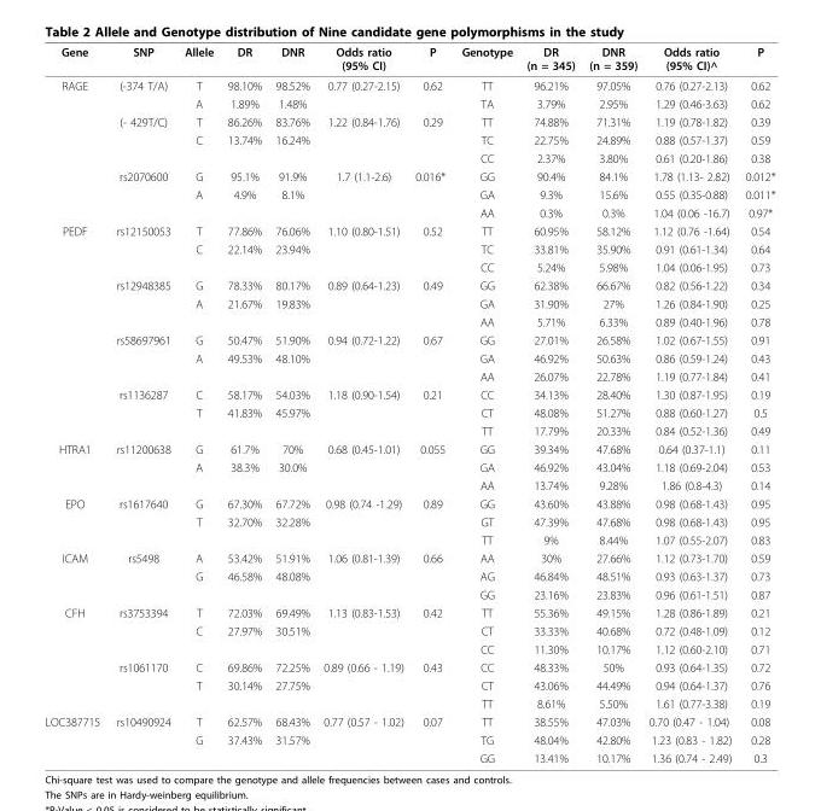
<table><thead><tr><td>Gene</td><td>SNP</td><td>Allele</td><td>DR</td><td>DNR</td><td>Odds ratio (95% CI)</td><td>P</td><td>Genotype</td><td>DR (n = 345)</td><td>DNR (n = 359)</td><td>Odds ratio (95% CI)^</td><td>P</td></tr></thead><tbody><tr><td rowspan="8">RAGE</td><td>(-374 T/A)</td><td>T</td><td>98.10%</td><td>98.52%</td><td>0.77 (0.27-2.15)</td><td>0.62</td><td>TT</td><td>96.21%</td><td>97.05%</td><td>0.76 (0.27-2.13)</td><td>0.62</td></tr><tr><td></td><td>A</td><td>1.89%</td><td>1.48%</td><td></td><td></td><td>TA</td><td>3.79%</td><td>2.95%</td><td>1.29 (0.46-3.63)</td><td>0.62</td></tr><tr><td>(- 429T/C)</td><td>T</td><td>86.26%</td><td>83.76%</td><td>1.22 (0.84-1.76)</td><td>0.29</td><td>TT</td><td>74.88%</td><td>71.31%</td><td>1.19 (0.78-1.82)</td><td>0.39</td></tr><tr><td></td><td>C</td><td>13.74%</td><td>16.24%</td><td></td><td></td><td>TC</td><td>22.75%</td><td>24.89%</td><td>0.88 (0.57-1.37)</td><td>0.59</td></tr><tr><td></td><td></td><td></td><td></td><td></td><td></td><td>CC</td><td>2.37%</td><td>3.80%</td><td>0.61 (0.20-1.86)</td><td>0.38</td></tr><tr><td>rs2070600</td><td>G</td><td>95.1%</td><td>91.9%</td><td>1.7 (1.1-2.6)</td><td>0.016*</td><td>GG</td><td>90.4%</td><td>84.1%</td><td>1.78 (1.13- 2.82)</td><td>0.012*</td></tr><tr><td></td><td>A</td><td>4.9%</td><td>8.1%</td><td></td><td></td><td>GA</td><td>9.3%</td><td>15.6%</td><td>0.55 (0.35-0.88)</td><td>0.011*</td></tr><tr><td></td><td></td><td></td><td></td><td></td><td></td><td>AA</td><td>0.3%</td><td>0.3%</td><td>1.04 (0.06 -16.7)</td><td>0.97*</td></tr><tr><td rowspan="12">PEDF</td><td>rs12150053</td><td>T</td><td>77.86%</td><td>76.06%</td><td>1.10 (0.80-1.51)</td><td>0.52</td><td>TT</td><td>60.95%</td><td>58.12%</td><td>1.12 (0.76 -1.64)</td><td>0.54</td></tr><tr><td></td><td>C</td><td>22.14%</td><td>23.94%</td><td></td><td></td><td>TC</td><td>33.81%</td><td>35.90%</td><td>0.91 (0.61-1.34)</td><td>0.64</td></tr><tr><td></td><td></td><td></td><td></td><td></td><td></td><td>CC</td><td>5.24%</td><td>5.98%</td><td>1.04 (0.06-1.95)</td><td>0.73</td></tr><tr><td>rs12948385</td><td>G</td><td>78.33%</td><td>80.17%</td><td>0.89 (0.64-1.23)</td><td>0.49</td><td>GG</td><td>62.38%</td><td>66.67%</td><td>0.82 (0.56-1.22)</td><td>0.34</td></tr><tr><td></td><td>A</td><td>21.67%</td><td>19.83%</td><td></td><td></td><td>GA</td><td>31.90%</td><td>27%</td><td>1.26 (0.84-1.90)</td><td>0.25</td></tr><tr><td></td><td></td><td></td><td></td><td></td><td></td><td>AA</td><td>5.71%</td><td>6.33%</td><td>0.89 (0.40-1.96)</td><td>0.78</td></tr><tr><td>rs58697961</td><td>G</td><td>50.47%</td><td>51.90%</td><td>0.94 (0.72-1.22)</td><td>0.67</td><td>GG</td><td>27.01%</td><td>26.58%</td><td>1.02 (0.67-1.55)</td><td>0.91</td></tr><tr><td></td><td>A</td><td>49.53%</td><td>48.10%</td><td></td><td></td><td>GA</td><td>46.92%</td><td>50.63%</td><td>0.86 (0.59-1.24)</td><td>0.43</td></tr><tr><td></td><td></td><td></td><td></td><td></td><td></td><td>AA</td><td>26.07%</td><td>22.78%</td><td>1.19 (0.77-1.84)</td><td>0.41</td></tr><tr><td>rs1136287</td><td>C</td><td>58.17%</td><td>54.03%</td><td>1.18 (0.90-1.54)</td><td>0.21</td><td>CC</td><td>34.13%</td><td>28.40%</td><td>1.30 (0.87-1.95)</td><td>0.19</td></tr><tr><td></td><td>T</td><td>41.83%</td><td>45.97%</td><td></td><td></td><td>CT</td><td>48.08%</td><td>51.27%</td><td>0.88 (0.60-1.27)</td><td>0.5</td></tr><tr><td></td><td></td><td></td><td></td><td></td><td></td><td>TT</td><td>17.79%</td><td>20.33%</td><td>0.84 (0.52-1.36)</td><td>0.49</td></tr><tr><td rowspan="3">HTRA1</td><td>rs11200638</td><td>G</td><td>61.7%</td><td>70%</td><td>0.68 (0.45-1.01)</td><td>0.055</td><td>GG</td><td>39.34%</td><td>47.68%</td><td>0.64 (0.37-1.1)</td><td>0.11</td></tr><tr><td></td><td>A</td><td>38.3%</td><td>30.0%</td><td></td><td></td><td>GA</td><td>46.92%</td><td>43.04%</td><td>1.18 (0.69-2.04)</td><td>0.53</td></tr><tr><td></td><td></td><td></td><td></td><td></td><td></td><td>AA</td><td>13.74%</td><td>9.28%</td><td>1.86 (0.8-4.3)</td><td>0.14</td></tr><tr><td rowspan="3">EPO</td><td>rs1617640</td><td>G</td><td>67.30%</td><td>67.72%</td><td>0.98 (0.74 -1.29)</td><td>0.89</td><td>GG</td><td>43.60%</td><td>43.88%</td><td>0.98 (0.68-1.43)</td><td>0.95</td></tr><tr><td></td><td>T</td><td>32.70%</td><td>32.28%</td><td></td><td></td><td>GT</td><td>47.39%</td><td>47.68%</td><td>0.98 (0.68-1.43)</td><td>0.95</td></tr><tr><td></td><td></td><td></td><td></td><td></td><td></td><td>TT</td><td>9%</td><td>8.44%</td><td>1.07 (0.55-2.07)</td><td>0.83</td></tr><tr><td rowspan="3">ICAM</td><td>rs5498</td><td>A</td><td>53.42%</td><td>51.91%</td><td>1.06 (0.81-1.39)</td><td>0.66</td><td>AA</td><td>30%</td><td>27.66%</td><td>1.12 (0.73-1.70)</td><td>0.59</td></tr><tr><td></td><td>G</td><td>46.58%</td><td>48.08%</td><td></td><td></td><td>AG</td><td>46.84%</td><td>48.51%</td><td>0.93 (0.63-1.37)</td><td>0.73</td></tr><tr><td></td><td></td><td></td><td></td><td></td><td></td><td>GG</td><td>23.16%</td><td>23.83%</td><td>0.96 (0.61-1.51)</td><td>0.87</td></tr><tr><td rowspan="6">CFH</td><td>rs3753394</td><td>T</td><td>72.03%</td><td>69.49%</td><td>1.13 (0.83-1.53)</td><td>0.42</td><td>TT</td><td>55.36%</td><td>49.15%</td><td>1.28 (0.86-1.89)</td><td>0.21</td></tr><tr><td></td><td>C</td><td>27.97%</td><td>30.51%</td><td></td><td></td><td>CT</td><td>33.33%</td><td>40.68%</td><td>0.72 (0.48-1.09)</td><td>0.12</td></tr><tr><td></td><td></td><td></td><td></td><td></td><td></td><td>CC</td><td>11.30%</td><td>10.17%</td><td>1.12 (0.60-2.10)</td><td>0.71</td></tr><tr><td>rs1061170</td><td>C</td><td>69.86%</td><td>72.25%</td><td>0.89 (0.66 - 1.19)</td><td>0.43</td><td>CC</td><td>48.33%</td><td>50%</td><td>0.93 (0.64-1.35)</td><td>0.72</td></tr><tr><td></td><td>T</td><td>30.14%</td><td>27.75%</td><td></td><td></td><td>CT</td><td>43.06%</td><td>44.49%</td><td>0.94 (0.64-1.37)</td><td>0.76</td></tr><tr><td></td><td></td><td></td><td></td><td></td><td></td><td>TT</td><td>8.61%</td><td>5.50%</td><td>1.61 (0.77-3.38)</td><td>0.19</td></tr><tr><td rowspan="3">LOC387715</td><td>rs10490924</td><td>T</td><td>62.57%</td><td>68.43%</td><td>0.77 (0.57 - 1.02)</td><td>0.07</td><td>TT</td><td>38.55%</td><td>47.03%</td><td>0.70 (0.47 - 1.04)</td><td>0.08</td></tr><tr><td></td><td>G</td><td>37.43%</td><td>31.57%</td><td></td><td></td><td>TG</td><td>48.04%</td><td>42.80%</td><td>1.23 (0.83 - 1.82)</td><td>0.28</td></tr><tr><td></td><td></td><td></td><td></td><td></td><td></td><td>GG</td><td>13.41%</td><td>10.17%</td><td>1.36 (0.74 - 2.49)</td><td>0.3</td></tr></tbody></table>